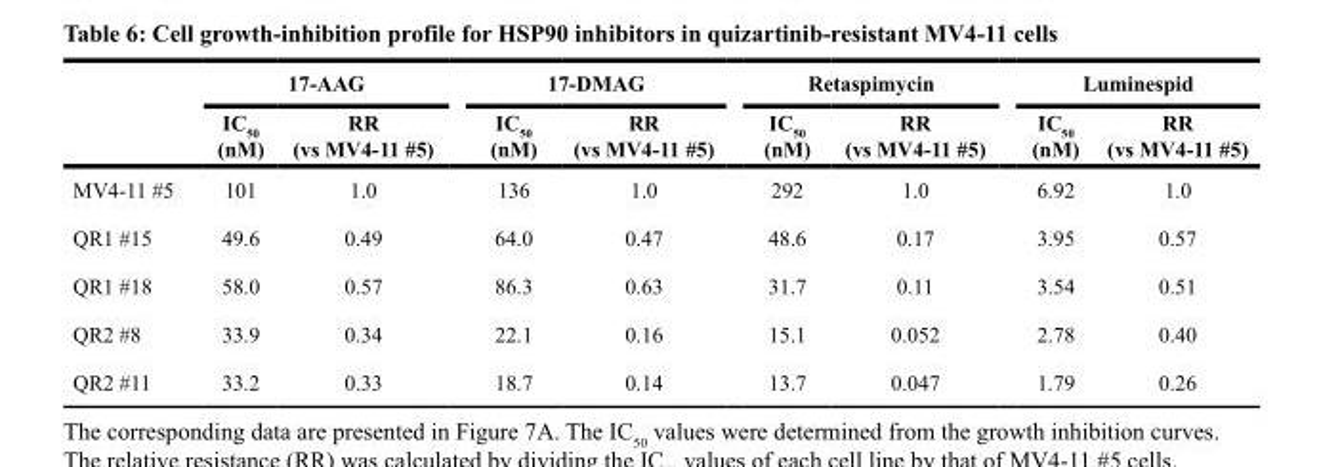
<table><thead><tr><td rowspan="2"></td><td colspan="2">17-AAG</td><td colspan="2">17-DMAG</td><td colspan="2">Retaspimycin</td><td colspan="2">Luminespid</td></tr><tr><td>IC<sub>50</sub> (nM)</td><td>RR (vs MV4-11 #5)</td><td>IC<sub>50</sub> (nM)</td><td>RR (vs MV4-11 #5)</td><td>IC<sub>50</sub> (nM)</td><td>RR (vs MV4-11 #5)</td><td>IC<sub>50</sub> (nM)</td><td>RR (vs MV4-11 #5)</td></tr></thead><tbody><tr><td>MV4-11 #5</td><td>101</td><td>1.0</td><td>136</td><td>1.0</td><td>292</td><td>1.0</td><td>6.92</td><td>1.0</td></tr><tr><td>QR1 #15</td><td>49.6</td><td>0.49</td><td>64.0</td><td>0.47</td><td>48.6</td><td>0.17</td><td>3.95</td><td>0.57</td></tr><tr><td>QR1 #18</td><td>58.0</td><td>0.57</td><td>86.3</td><td>0.63</td><td>31.7</td><td>0.11</td><td>3.54</td><td>0.51</td></tr><tr><td>QR2 #8</td><td>33.9</td><td>0.34</td><td>22.1</td><td>0.16</td><td>15.1</td><td>0.052</td><td>2.78</td><td>0.40</td></tr><tr><td>QR2 #11</td><td>33.2</td><td>0.33</td><td>18.7</td><td>0.14</td><td>13.7</td><td>0.047</td><td>1.79</td><td>0.26</td></tr></tbody></table>